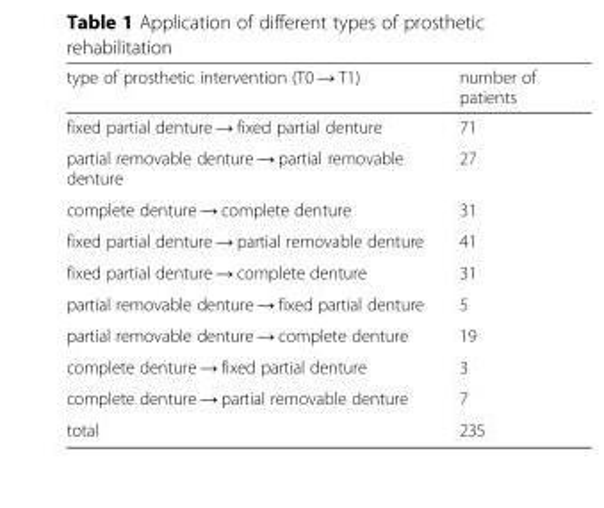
<table><thead><tr><td>type of prosthetic intervention (T0 → T1)</td><td>number of patients</td></tr></thead><tbody><tr><td>fixed partial denture → fixed partial denture</td><td>71</td></tr><tr><td>partial removable denture → partial removable denture</td><td>27</td></tr><tr><td>complete denture → complete denture</td><td>31</td></tr><tr><td>fixed partial denture → partial removable denture</td><td>41</td></tr><tr><td>fixed partial denture → complete denture</td><td>31</td></tr><tr><td>partial removable denture → fixed partial denture</td><td>5</td></tr><tr><td>partial removable denture → complete denture</td><td>19</td></tr><tr><td>complete denture → fixed partial denture</td><td>3</td></tr><tr><td>complete denture → partial removable denture</td><td>7</td></tr><tr><td>total</td><td>235</td></tr></tbody></table>